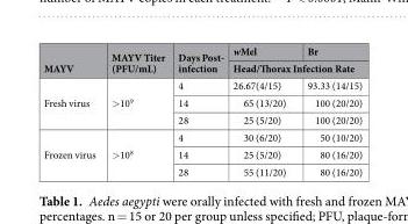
<table><thead><tr><td rowspan="2">MAYV</td><td rowspan="2">MAYV Titer (PFU/mL)</td><td rowspan="2">Days Post- infection</td><td>wMel</td><td>Br</td></tr><tr><td colspan="2">Head/Thorax Infection Rate</td></tr></thead><tbody><tr><td rowspan="3">Fresh virus</td><td rowspan="3">&gt;10<sup>9</sup></td><td>4</td><td>26.67(4/15)</td><td>93.33 (14/15)</td></tr><tr><td>14</td><td>65 (13/20)</td><td>100 (20/20)</td></tr><tr><td>28</td><td>25 (5/20)</td><td>100 (20/20)</td></tr><tr><td rowspan="3">Frozen virus</td><td rowspan="3">&gt;10<sup>8</sup></td><td>4</td><td>30 (6/20)</td><td>50 (10/20)</td></tr><tr><td>14</td><td>25 (5/20)</td><td>80 (16/20)</td></tr><tr><td>28</td><td>55 (11/20)</td><td>80 (16/20)</td></tr></tbody></table>